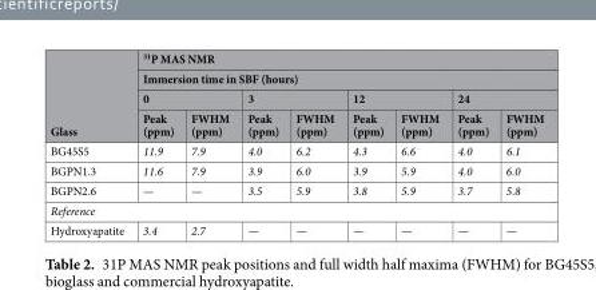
<table><thead><tr><td rowspan="4">Glass</td><td rowspan="2" colspan="8"><sup>31</sup>P MAS NMR Immersion time in SBF (hours)</td></tr><tr></tr><tr><td colspan="2">0</td><td colspan="2">3</td><td colspan="2">12</td><td colspan="2">24</td></tr><tr><td>Peak (ppm)</td><td>FWHM (ppm)</td><td>Peak (ppm)</td><td>FWHM (ppm)</td><td>Peak (ppm)</td><td>FWHM (ppm)</td><td>Peak (ppm)</td><td>FWHM (ppm)</td></tr></thead><tbody><tr><td>BG45S5</td><td>11.9</td><td>7.9</td><td>4.0</td><td>6.2</td><td>4.3</td><td>6.6</td><td>4.0</td><td>6.1</td></tr><tr><td>BGPN1.3</td><td>11.6</td><td>7.9</td><td>3.9</td><td>6.0</td><td>3.9</td><td>5.9</td><td>4.0</td><td>6.0</td></tr><tr><td>BGPN2.6</td><td>—</td><td>—</td><td>3.5</td><td>5.9</td><td>3.8</td><td>5.9</td><td>3.7</td><td>5.8</td></tr><tr><td colspan="9">Reference</td></tr><tr><td>Hydroxyapatite</td><td>3.4</td><td>2.7</td><td>—</td><td>—</td><td>—</td><td>—</td><td>—</td><td>—</td></tr></tbody></table>